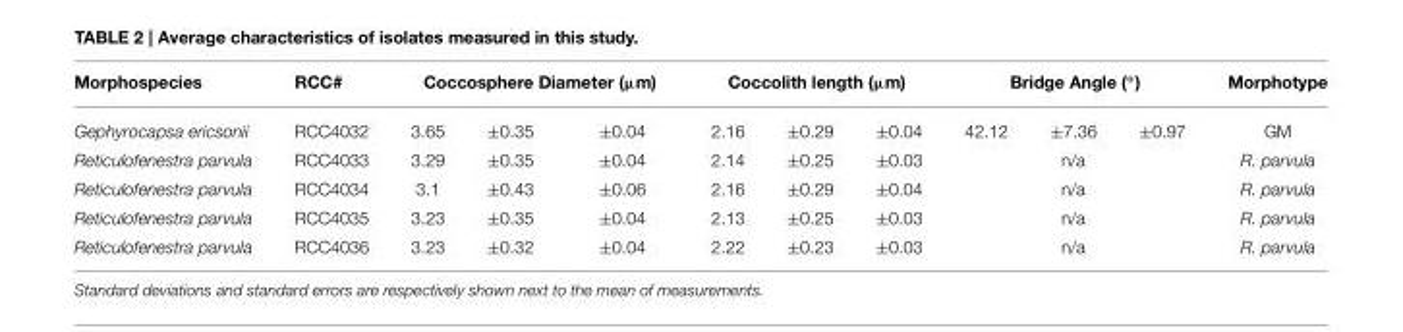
<table><thead><tr><td rowspan="2">Morphospecies Gephyrocapsa ericsonii</td><td rowspan="2">RCC# RCC4032</td><td colspan="3">Coccosphere Diameter (µm)</td><td colspan="3">Coccolith length (µm)</td><td colspan="3">Bridge Angle (◦)</td><td rowspan="2">Morphotype GM</td></tr><tr><td>3.65</td><td>±0.35</td><td>±0.04</td><td>2.16</td><td>±0.29</td><td>±0.04</td><td>42.12</td><td>±7.36</td><td>±0.97</td></tr></thead><tbody><tr><td>Reticulofenestra parvula</td><td>RCC4033</td><td>3.29</td><td>±0.35</td><td>±0.04</td><td>2.14</td><td>±0.25</td><td>±0.03</td><td></td><td>n/a</td><td></td><td>R. parvula</td></tr><tr><td>Reticulofenestra parvula</td><td>RCC4034</td><td>3.1</td><td>±0.43</td><td>±0.06</td><td>2.16</td><td>±0.29</td><td>±0.04</td><td></td><td>n/a</td><td></td><td>R. parvula</td></tr><tr><td>Reticulofenestra parvula</td><td>RCC4035</td><td>3.23</td><td>±0.35</td><td>±0.04</td><td>2.13</td><td>±0.25</td><td>±0.03</td><td></td><td>n/a</td><td></td><td>R. parvula</td></tr><tr><td>Reticulofenestra parvula</td><td>RCC4036</td><td>3.23</td><td>±0.32</td><td>±0.04</td><td>2.22</td><td>±0.23</td><td>±0.03</td><td></td><td>n/a</td><td></td><td>R. parvula</td></tr></tbody></table>